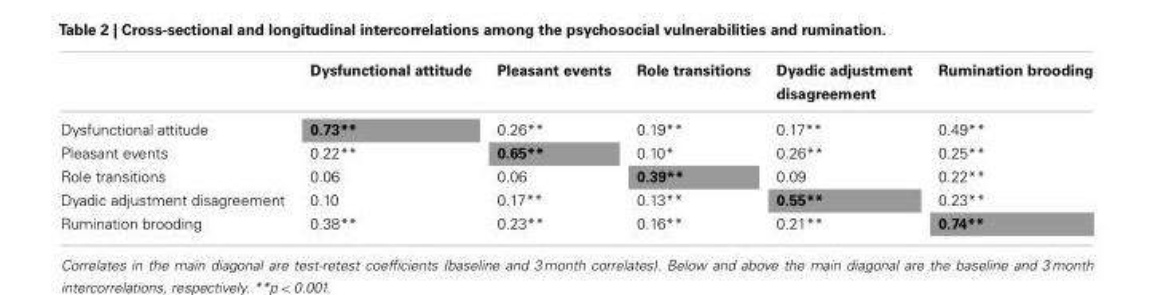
<table><thead><tr><td></td><td>Dysfunctional attitude</td><td>Pleasant events</td><td>Role transitions</td><td>Dyadic adjustment disagreement</td><td>Rumination brooding</td></tr></thead><tbody><tr><td>Dysfunctional attitude</td><td>0.73**</td><td>0.26**</td><td>0.19**</td><td>0.17**</td><td>0.49**</td></tr><tr><td>Pleasant events</td><td>0.22**</td><td>0.65**</td><td>0.10*</td><td>0.26**</td><td>0.25**</td></tr><tr><td>Role transitions</td><td>0.06</td><td>0.06</td><td>0.39**</td><td>0.09</td><td>0.22**</td></tr><tr><td>Dyadic adjustment disagreement</td><td>0.10</td><td>0.17**</td><td>0.13**</td><td>0.55**</td><td>0.23**</td></tr><tr><td>Rumination brooding</td><td>0.38**</td><td>0.23**</td><td>0.16**</td><td>0.21**</td><td>0.74**</td></tr></tbody></table>